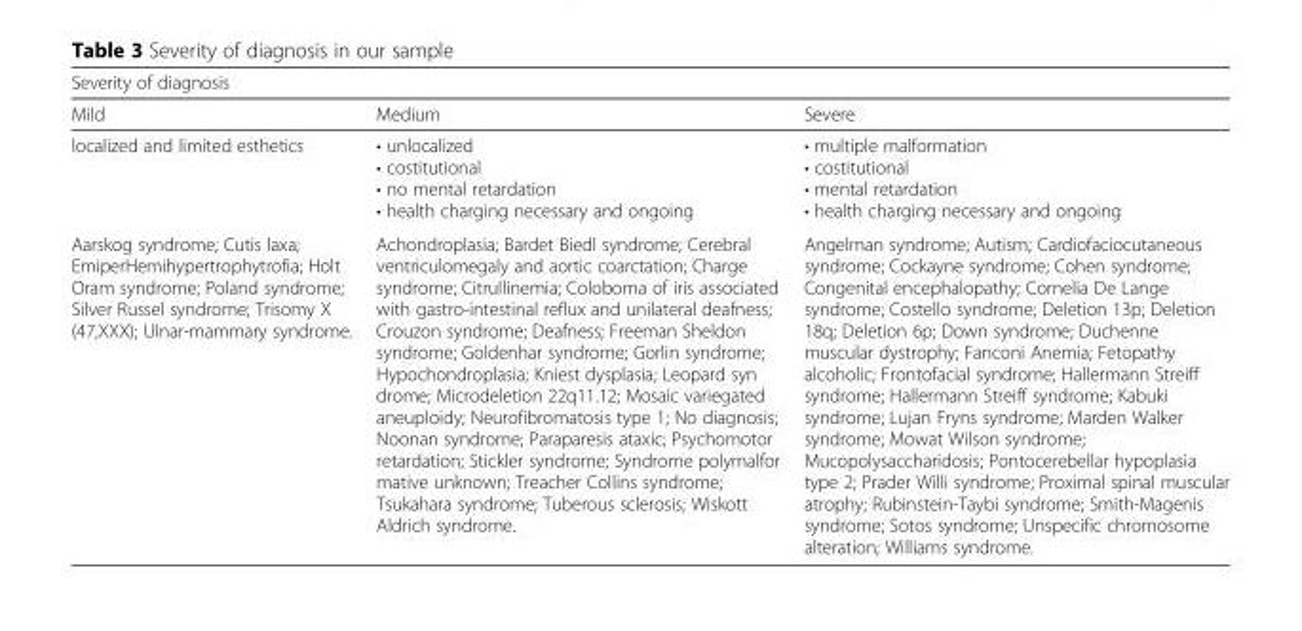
<table><thead><tr><td colspan="3">Severity of diagnosis</td></tr><tr><td>Mild</td><td>Medium</td><td>Severe</td></tr></thead><tbody><tr><td>localized and limited esthetics</td><td>• unlocalized • costitutional • no mental retardation • health charging necessary and ongoing</td><td>• multiple malformation • costitutional • mental retardation • health charging necessary and ongoing</td></tr><tr><td>Aarskog syndrome; Cutis laxa; EmiperHemihypertrophytrofia; Holt Oram syndrome; Poland syndrome; Silver Russel syndrome; Trisomy X (47,XXX); Ulnar-mammary syndrome.</td><td>Achondroplasia; Bardet Biedl syndrome; Cerebral ventriculomegaly and aortic coarctation; Charge syndrome; Citrullinemia; Coloboma of iris associated with gastro-intestinal reflux and unilateral deafness; Crouzon syndrome; Deafness; Freeman Sheldon syndrome; Goldenhar syndrome; Gorlin syndrome; Hypochondroplasia; Kniest dysplasia; Leopard syn drome; Microdeletion 22q11.12; Mosaic variegated aneuploidy; Neurofibromatosis type 1; No diagnosis; Noonan syndrome; Paraparesis ataxic; Psychomotor retardation; Stickler syndrome; Syndrome polymalfor mative unknown; Treacher Collins syndrome; Tsukahara syndrome; Tuberous sclerosis; Wiskott Aldrich syndrome.</td><td>Angelman syndrome; Autism; Cardiofaciocutaneous syndrome; Cockayne syndrome; Cohen syndrome; Congenital encephalopathy; Cornelia De Lange syndrome; Costello syndrome; Deletion 13p; Deletion 18q; Deletion 6p; Down syndrome; Duchenne muscular dystrophy; Fanconi Anemia; Fetopathy alcoholic; Frontofacial syndrome; Hallermann Streiff syndrome; Hallermann Streiff syndrome; Kabuki syndrome; Lujan Fryns syndrome; Marden Walker syndrome; Mowat Wilson syndrome; Mucopolysaccharidosis; Pontocerebellar hypoplasia type 2; Prader Willi syndrome; Proximal spinal muscular atrophy; Rubinstein-Taybi syndrome; Smith-Magenis syndrome; Sotos syndrome; Unspecific chromosome alteration; Williams syndrome.</td></tr></tbody></table>